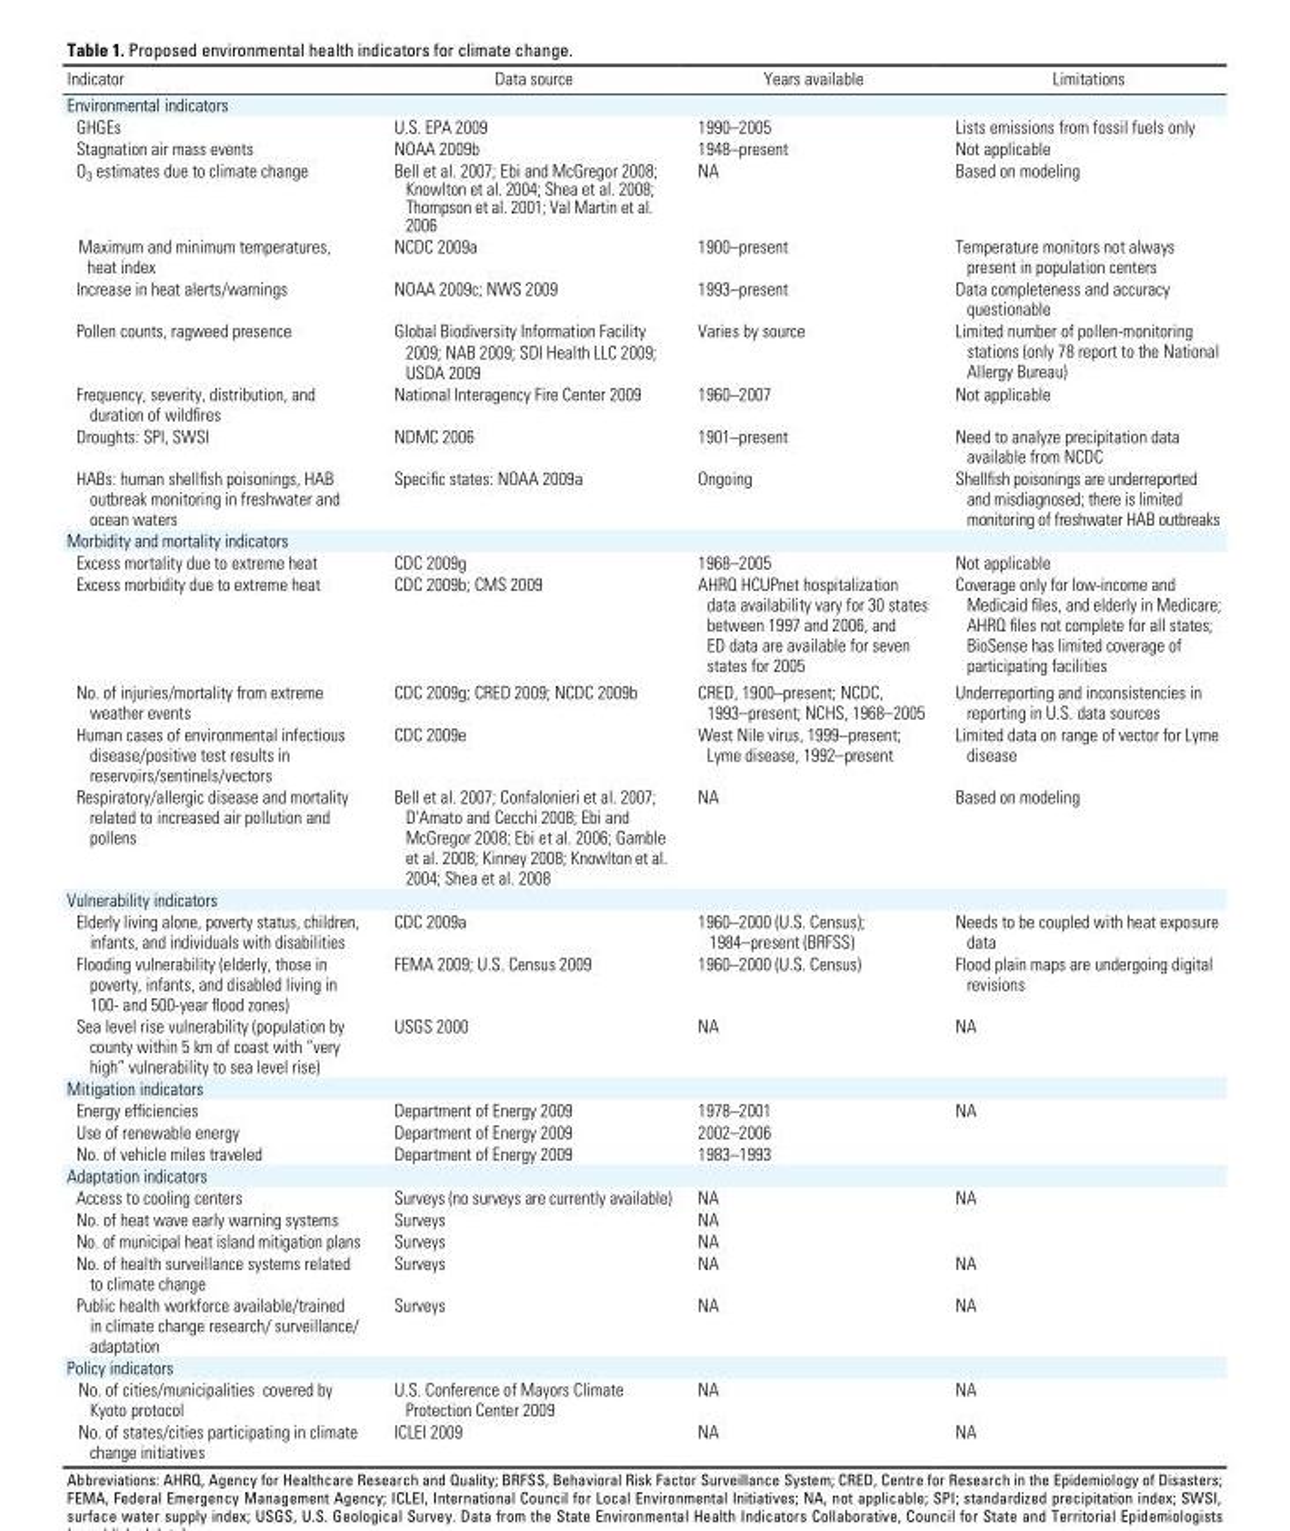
<table><thead><tr><td>Indicator</td><td>Data source</td><td>Years available</td><td>Limitations</td></tr></thead><tbody><tr><td colspan="4">Environmental indicators</td></tr><tr><td>GHGEs</td><td>U.S. EPA 2009</td><td>1990–2005</td><td>Lists emissions from fossil fuels only</td></tr><tr><td>Stagnation air mass events</td><td>NOAA 2009b</td><td>1948–present</td><td>Not applicable</td></tr><tr><td>O<sub>3</sub> estimates due to climate change</td><td>Bell et al. 2007; Ebi and McGregor 2008; Knowlton et al. 2004; Shea et al. 2008; Thompson et al. 2001; Val Martin et al. 2006</td><td>NA</td><td>Based on modeling</td></tr><tr><td>Maximum and minimum temperatures, heat index</td><td>NCDC 2009a</td><td>1900–present</td><td>Temperature monitors not always present in population centers</td></tr><tr><td>Increase in heat alerts/warnings</td><td>NOAA 2009c; NWS 2009</td><td>1993–present</td><td>Data completeness and accuracy questionable</td></tr><tr><td>Pollen counts, ragweed presence</td><td>Global Biodiversity Information Facility 2009; NAB 2009; SDI Health LLC 2009; USDA 2009</td><td>Varies by source</td><td>Limited number of pollen-monitoring stations (only 78 report to the National Allergy Bureau)</td></tr><tr><td>Frequency, severity, distribution, and duration of wildfires</td><td>National Interagency Fire Center 2009</td><td>1960–2007</td><td>Not applicable</td></tr><tr><td>Droughts: SPI, SWSI</td><td>NDMC 2006</td><td>1901–present</td><td>Need to analyze precipitation data available from NCDC</td></tr><tr><td>HABs: human shellfish poisonings, HAB outbreak monitoring in freshwater and ocean waters</td><td>Specific states: NOAA 2009a</td><td>Ongoing</td><td>Shellfish poisonings are underreported and misdiagnosed; there is limited monitoring of freshwater HAB outbreaks</td></tr><tr><td colspan="4">Morbidity and mortality indicators</td></tr><tr><td>Excess mortality due to extreme heat</td><td>CDC 2009g</td><td>1968–2005</td><td>Not applicable</td></tr><tr><td>Excess morbidity due to extreme heat</td><td>CDC 2009b; CMS 2009</td><td>AHRQ HCUPnet hospitalization data availability vary for 30 states between 1997 and 2006, and ED data are available for seven states for 2005</td><td>Coverage only for low-income and Medicaid files, and elderly in Medicare; AHRQ files not complete for all states; BioSense has limited coverage of participating facilities</td></tr><tr><td>No. of injuries/mortality from extreme weather events</td><td>CDC 2009g; CRED 2009; NCDC 2009b</td><td>CRED, 1900–present; NCDC, 1993–present; NCHS, 1968–2005</td><td>Underreporting and inconsistencies in reporting in U.S. data sources</td></tr><tr><td>Human cases of environmental infectious disease/positive test results in reservoirs/sentinels/vectors</td><td>CDC 2009e</td><td>West Nile virus, 1999–present; Lyme disease, 1992–present</td><td>Limited data on range of vector for Lyme disease</td></tr><tr><td>Respiratory/allergic disease and mortality related to increased air pollution and pollens</td><td>Bell et al. 2007; Confalonieri et al. 2007; D&#x27;Amato and Cecchi 2008; Ebi and McGregor 2008; Ebi et al. 2006; Gamble et al. 2008; Kinney 2008; Knowlton et al. 2004; Shea et al. 2008</td><td>NA</td><td>Based on modeling</td></tr><tr><td colspan="4">Vulnerability indicators</td></tr><tr><td>Elderly living alone, poverty status, children, infants, and individuals with disabilities</td><td>CDC 2009a</td><td>1960–2000 (U.S. Census); 1984–present (BRFSS)</td><td>Needs to be coupled with heat exposure data</td></tr><tr><td>Flooding vulnerability (elderly, those in poverty, infants, and disabled living in 100- and 500-year flood zones)</td><td>FEMA 2009; U.S. Census 2009</td><td>1960–2000 (U.S. Census)</td><td>Flood plain maps are undergoing digital revisions</td></tr><tr><td>Sea level rise vulnerability (population by county within 5 km of coast with “very high” vulnerability to sea level rise)</td><td>USGS 2000</td><td>NA</td><td>NA</td></tr><tr><td colspan="4">Mitigation indicators</td></tr><tr><td>Energy efficiencies</td><td>Department of Energy 2009</td><td>1978–2001</td><td>NA</td></tr><tr><td>Use of renewable energy</td><td>Department of Energy 2009</td><td>2002–2006</td><td></td></tr><tr><td>No. of vehicle miles traveled</td><td>Department of Energy 2009</td><td>1983–1993</td><td></td></tr><tr><td colspan="4">Adaptation indicators</td></tr><tr><td>Access to cooling centers</td><td>Surveys (no surveys are currently available)</td><td>NA</td><td>NA</td></tr><tr><td>No. of heat wave early warning systems</td><td>Surveys</td><td>NA</td><td></td></tr><tr><td>No. of municipal heat island mitigation plans</td><td>Surveys</td><td>NA</td><td></td></tr><tr><td>No. of health surveillance systems related to climate change</td><td>Surveys</td><td>NA</td><td>NA</td></tr><tr><td>Public health workforce available/trained in climate change research/ surveillance/ adaptation</td><td>Surveys</td><td>NA</td><td>NA</td></tr><tr><td colspan="4">Policy indicators</td></tr><tr><td>No. of cities/municipalities covered by Kyoto protocol</td><td>U.S. Conference of Mayors Climate Protection Center 2009</td><td>NA</td><td>NA</td></tr><tr><td>No. of states/cities participating in climate change initiatives</td><td>ICLEI 2009</td><td>NA</td><td>NA</td></tr></tbody></table>